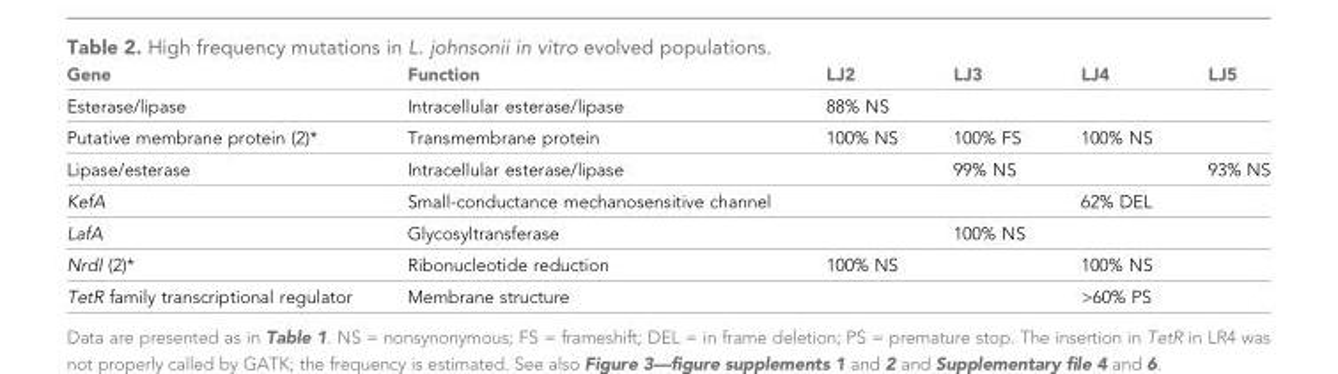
<table><thead><tr><td>Gene</td><td>Function</td><td>LJ2</td><td>LJ3</td><td>LJ4</td><td>LJ5</td></tr></thead><tbody><tr><td>Esterase/lipase</td><td>Intracellular esterase/lipase</td><td>88% NS</td><td></td><td></td><td></td></tr><tr><td>Putative membrane protein (2)*</td><td>Transmembrane protein</td><td>100% NS</td><td>100% FS</td><td>100% NS</td><td></td></tr><tr><td>Lipase/esterase</td><td>Intracellular esterase/lipase</td><td></td><td>99% NS</td><td></td><td>93% NS</td></tr><tr><td>KefA</td><td>Small-conductance mechanosensitive channel</td><td></td><td></td><td>62% DEL</td><td></td></tr><tr><td>LafA</td><td>Glycosyltransferase</td><td></td><td>100% NS</td><td></td><td></td></tr><tr><td>NrdI (2)*</td><td>Ribonucleotide reduction</td><td>100% NS</td><td></td><td>100% NS</td><td></td></tr><tr><td>TetR family transcriptional regulator</td><td>Membrane structure</td><td></td><td></td><td>&gt;60% PS</td><td></td></tr></tbody></table>